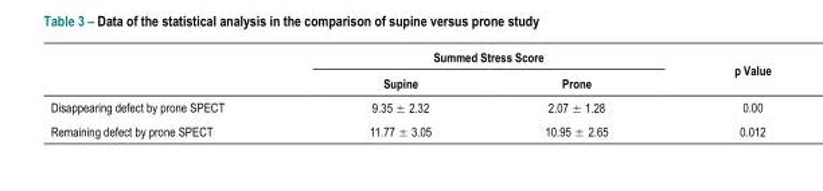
<table><thead><tr><td rowspan="2"></td><td colspan="2">Summed Stress Score</td><td rowspan="2">p Value</td></tr><tr><td>Supine</td><td>Prone</td></tr></thead><tbody><tr><td>Disappearing defect by prone SPECT</td><td>9.35 ± 2.32</td><td>2.07 ± 1.28</td><td>0.00</td></tr><tr><td>Remaining defect by prone SPECT</td><td>11.77 ± 3.05</td><td>10.95 ± 2.65</td><td>0.012</td></tr></tbody></table>